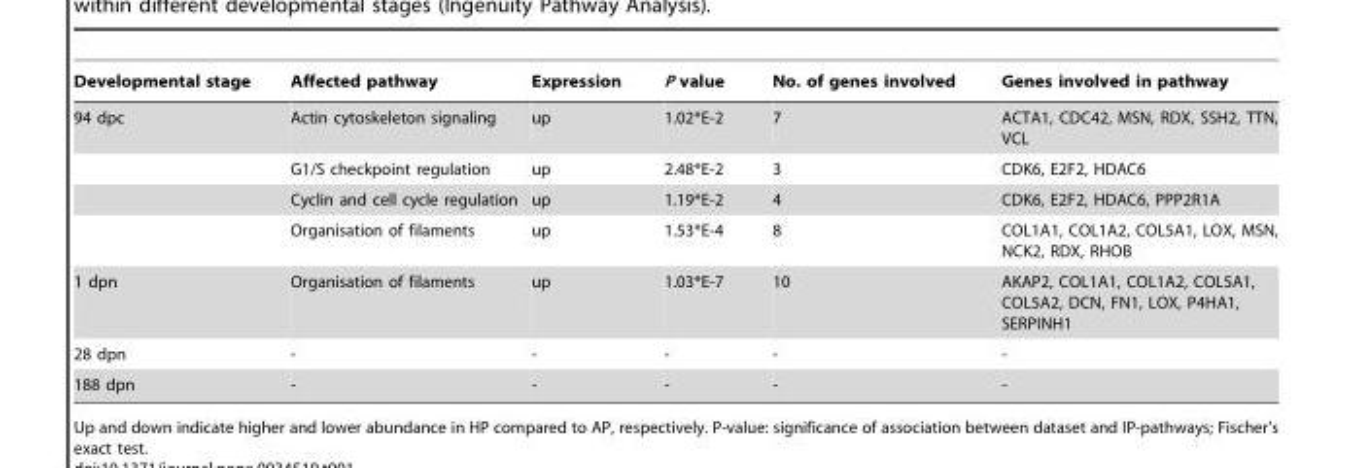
<table><thead><tr><td>Developmental stage</td><td>Affected pathway</td><td>Expression</td><td>P value</td><td>No. of genes involved</td><td>Genes involved in pathway</td></tr></thead><tbody><tr><td rowspan="4">94 dpc</td><td>Actin cytoskeleton signaling</td><td>up</td><td>1.02*E-2</td><td>7</td><td>ACTA1, CDC42, MSN, RDX, SSH2, TTN, VCL</td></tr><tr><td>G1/S checkpoint regulation</td><td>up</td><td>2.48*E-2</td><td>3</td><td>CDK6, E2F2, HDAC6</td></tr><tr><td>Cyclin and cell cycle regulation</td><td>up</td><td>1.19*E-2</td><td>4</td><td>CDK6, E2F2, HDAC6, PPP2R1A</td></tr><tr><td>Organisation of filaments</td><td>up</td><td>1.53*E-4</td><td>8</td><td>COL1A1, COL1A2, COL5A1, LOX, MSN, NCK2, RDX, RHOB</td></tr><tr><td>1 dpn</td><td>Organisation of filaments</td><td>up</td><td>1.03*E-7</td><td>10</td><td>AKAP2, COL1A1, COL1A2, COL5A1, COL5A2, DCN, FN1, LOX, P4HA1, SERPINH1</td></tr><tr><td>28 dpn</td><td>-</td><td>-</td><td>-</td><td>-</td><td>-</td></tr><tr><td>188 dpn</td><td>-</td><td>-</td><td>-</td><td>-</td><td>-</td></tr></tbody></table>